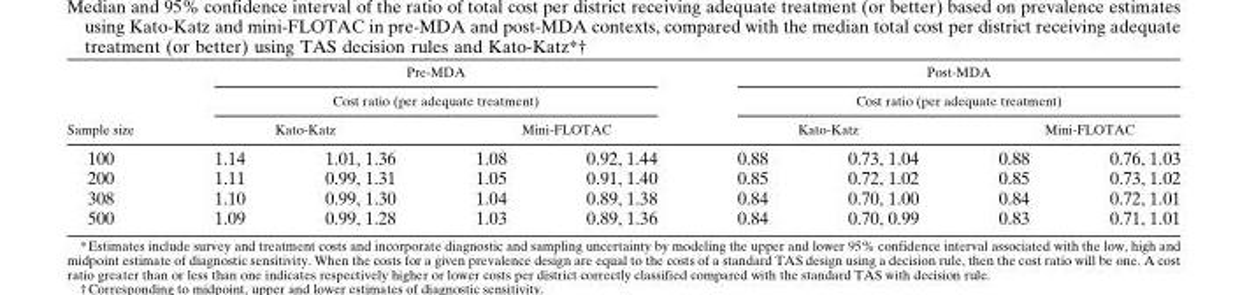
<table><thead><tr><td rowspan="4">Sample size 100</td><td rowspan="2" colspan="4">Pre-MDA Cost ratio (per adequate treatment)</td><td rowspan="2" colspan="4">Post-MDA Cost ratio (per adequate treatment)</td></tr><tr></tr><tr><td colspan="2">Kato-Katz</td><td colspan="2">Mini-FLOTAC</td><td colspan="2">Kato-Katz</td><td colspan="2">Mini-FLOTAC</td></tr><tr><td>1.14</td><td>1.01, 1.36</td><td>1.08</td><td>0.92, 1.44</td><td>0.88</td><td>0.73, 1.04</td><td>0.88</td><td>0.76, 1.03</td></tr></thead><tbody><tr><td>200</td><td>1.11</td><td>0.99, 1.31</td><td>1.05</td><td>0.91, 1.40</td><td>0.85</td><td>0.72, 1.02</td><td>0.85</td><td>0.73, 1.02</td></tr><tr><td>308</td><td>1.10</td><td>0.99, 1.30</td><td>1.04</td><td>0.89, 1.38</td><td>0.84</td><td>0.70, 1.00</td><td>0.84</td><td>0.72, 1.01</td></tr><tr><td>500</td><td>1.09</td><td>0.99, 1.28</td><td>1.03</td><td>0.89, 1.36</td><td>0.84</td><td>0.70, 0.99</td><td>0.83</td><td>0.71, 1.01</td></tr></tbody></table>